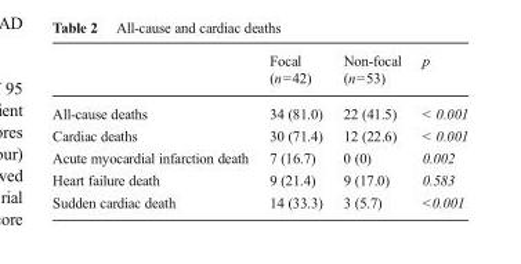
<table><thead><tr><td></td><td>Focal (n=42)</td><td>Non-focal (n=53)</td><td>p</td></tr></thead><tbody><tr><td>All-cause deaths</td><td>34 (81.0)</td><td>22 (41.5)</td><td>&lt; 0.001</td></tr><tr><td>Cardiac deaths</td><td>30 (71.4)</td><td>12 (22.6)</td><td>&lt; 0.001</td></tr><tr><td>Acute myocardial infarction death</td><td>7 (16.7)</td><td>0 (0)</td><td>0.002</td></tr><tr><td>Heart failure death</td><td>9 (21.4)</td><td>9 (17.0)</td><td>0.583</td></tr><tr><td>Sudden cardiac death</td><td>14 (33.3)</td><td>3 (5.7)</td><td>&lt;0.001</td></tr></tbody></table>